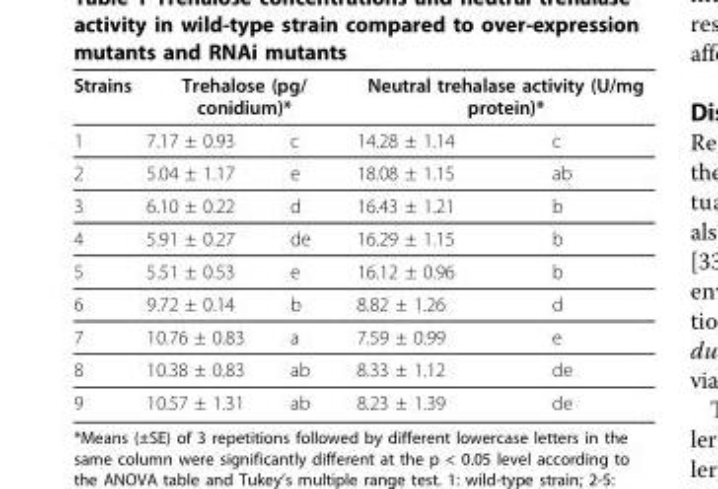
<table><thead><tr><td rowspan="2">Strains 1</td><td colspan="2">Trehalose (pg/ conidium)*</td><td colspan="2">Neutral trehalase activity (U/mg protein)*</td></tr><tr><td>7.17 ± 0.93</td><td>c</td><td>14.28 ± 1.14</td><td>c</td></tr></thead><tbody><tr><td>2</td><td>5.04 ± 1.17</td><td>e</td><td>18.08 ± 1.15</td><td>ab</td></tr><tr><td>3</td><td>6.10 ± 0.22</td><td>d</td><td>16.43 ± 1.21</td><td>b</td></tr><tr><td>4</td><td>5.91 ± 0.27</td><td>de</td><td>16.29 ± 1.15</td><td>b</td></tr><tr><td>5</td><td>5.51 ± 0.53</td><td>e</td><td>16.12 ± 0.96</td><td>b</td></tr><tr><td>6</td><td>9.72 ± 0.14</td><td>b</td><td>8.82 ± 1.26</td><td>d</td></tr><tr><td>7</td><td>10.76 ± 0.83</td><td>a</td><td>7.59 ± 0.99</td><td>e</td></tr><tr><td>8</td><td>10.38 ± 0.83</td><td>ab</td><td>8.33 ± 1.12</td><td>de</td></tr><tr><td>9</td><td>10.57 ± 1.31</td><td>ab</td><td>8.23 ± 1.39</td><td>de</td></tr></tbody></table>